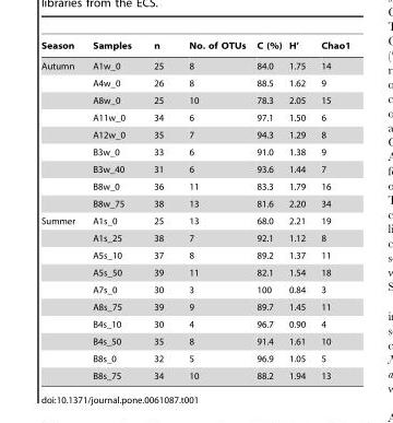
<table><thead><tr><td>Season</td><td>Samples</td><td>n</td><td>No. of OTUs</td><td>C (%)</td><td>H’</td><td>Chao1</td></tr></thead><tbody><tr><td rowspan="9">Autumn</td><td>A1w_0</td><td>25</td><td>8</td><td>84.0</td><td>1.75</td><td>14</td></tr><tr><td>A4w_0</td><td>26</td><td>8</td><td>88.5</td><td>1.62</td><td>9</td></tr><tr><td>A8w_0</td><td>25</td><td>10</td><td>78.3</td><td>2.05</td><td>15</td></tr><tr><td>A11w_0</td><td>34</td><td>6</td><td>97.1</td><td>1.50</td><td>6</td></tr><tr><td>A12w_0</td><td>35</td><td>7</td><td>94.3</td><td>1.29</td><td>8</td></tr><tr><td>B3w_0</td><td>33</td><td>6</td><td>91.0</td><td>1.38</td><td>9</td></tr><tr><td>B3w_40</td><td>31</td><td>6</td><td>93.6</td><td>1.44</td><td>7</td></tr><tr><td>B8w_0</td><td>36</td><td>11</td><td>83.3</td><td>1.79</td><td>16</td></tr><tr><td>B8w_75</td><td>38</td><td>13</td><td>81.6</td><td>2.20</td><td>34</td></tr><tr><td rowspan="10">Summer</td><td>A1s_0</td><td>25</td><td>13</td><td>68.0</td><td>2.21</td><td>19</td></tr><tr><td>A1s_25</td><td>38</td><td>7</td><td>92.1</td><td>1.12</td><td>8</td></tr><tr><td>A5s_10</td><td>37</td><td>8</td><td>89.2</td><td>1.37</td><td>11</td></tr><tr><td>A5s_50</td><td>39</td><td>11</td><td>82.1</td><td>1.54</td><td>18</td></tr><tr><td>A7s_0</td><td>30</td><td>3</td><td>100</td><td>0.84</td><td>3</td></tr><tr><td>A8s_75</td><td>39</td><td>9</td><td>89.7</td><td>1.45</td><td>11</td></tr><tr><td>B4s_10</td><td>30</td><td>4</td><td>96.7</td><td>0.90</td><td>4</td></tr><tr><td>B4s_50</td><td>35</td><td>8</td><td>91.4</td><td>1.61</td><td>10</td></tr><tr><td>B8s_0</td><td>32</td><td>5</td><td>96.9</td><td>1.05</td><td>5</td></tr><tr><td>B8s_75</td><td>34</td><td>10</td><td>88.2</td><td>1.94</td><td>13</td></tr></tbody></table>